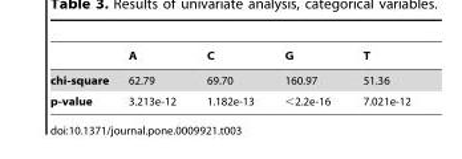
<table><thead><tr><td></td><td>A</td><td>C</td><td>G</td><td>T</td></tr></thead><tbody><tr><td>chi-square</td><td>62.79</td><td>69.70</td><td>160.97</td><td>51.36</td></tr><tr><td>p-value</td><td>3.213e-12</td><td>1.182e-13</td><td>&lt;2.2e-16</td><td>7.021e-12</td></tr></tbody></table>